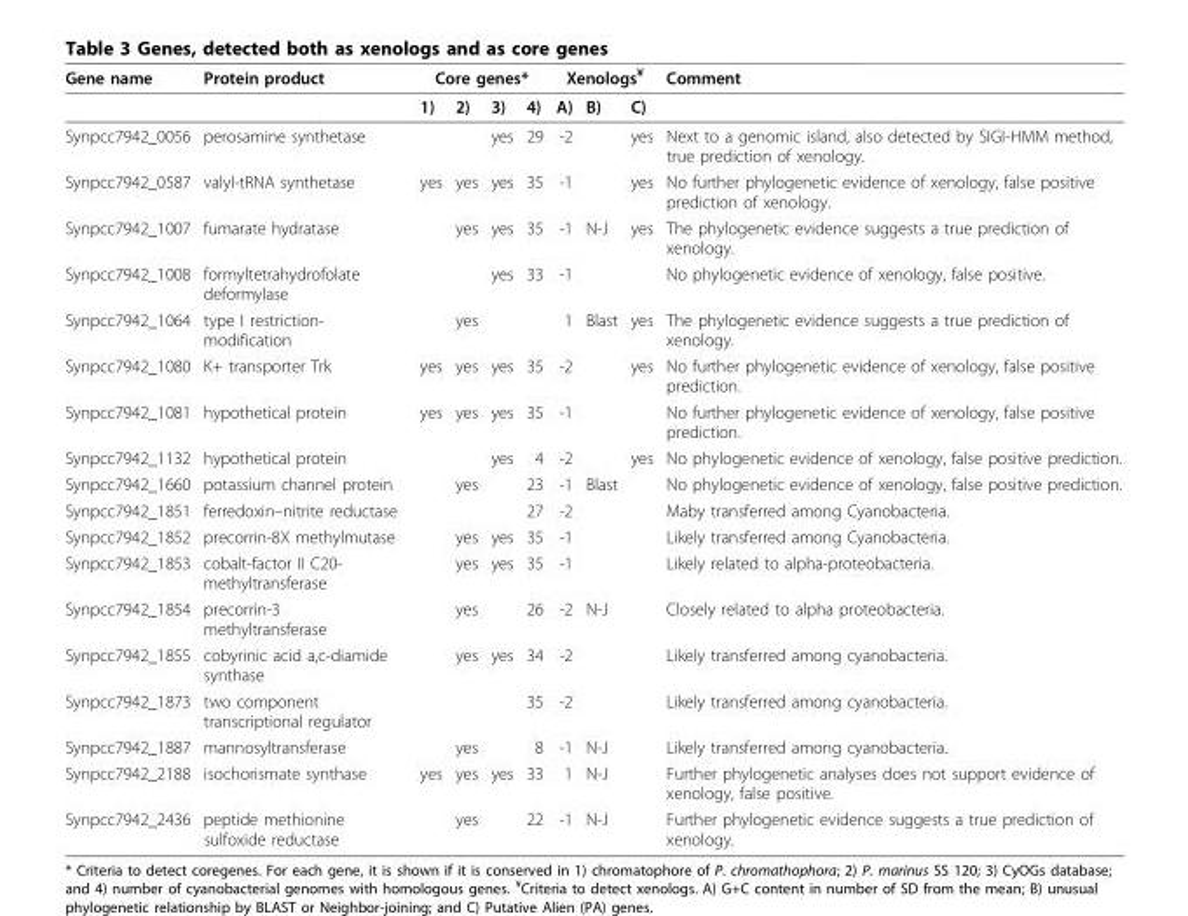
<table><thead><tr><td rowspan="2">Gene name</td><td rowspan="2">Protein product</td><td colspan="4">Core genes*</td><td colspan="3">Xenologs<sup>¥</sup></td><td rowspan="2">Comment</td></tr><tr><td>1)</td><td>2)</td><td>3)</td><td>4)</td><td>A)</td><td>B)</td><td>C)</td></tr></thead><tbody><tr><td>Synpcc7942_0056</td><td>perosamine synthetase</td><td></td><td></td><td>yes</td><td>29</td><td>-2</td><td></td><td>yes</td><td>Next to a genomic island, also detected by SIGI-HMM method, true prediction of xenology.</td></tr><tr><td>Synpcc7942_0587</td><td>valyl-tRNA synthetase</td><td>yes</td><td>yes</td><td>yes</td><td>35</td><td>-1</td><td></td><td>yes</td><td>No further phylogenetic evidence of xenology, false positive prediction of xenology.</td></tr><tr><td>Synpcc7942_1007</td><td>fumarate hydratase</td><td></td><td>yes</td><td>yes</td><td>35</td><td>-1</td><td>N-J</td><td>yes</td><td>The phylogenetic evidence suggests a true prediction of xenology.</td></tr><tr><td>Synpcc7942_1008</td><td>formyltetrahydrofolate deformylase</td><td></td><td></td><td>yes</td><td>33</td><td>-1</td><td></td><td></td><td>No phylogenetic evidence of xenology, false positive.</td></tr><tr><td>Synpcc7942_1064</td><td>type I restriction- modification</td><td></td><td>yes</td><td></td><td></td><td>1</td><td>Blast</td><td>yes</td><td>The phylogenetic evidence suggests a true prediction of xenology.</td></tr><tr><td>Synpcc7942_1080</td><td>K+ transporter Trk</td><td>yes</td><td>yes</td><td>yes</td><td>35</td><td>-2</td><td></td><td>yes</td><td>No further phylogenetic evidence of xenology, false positive prediction.</td></tr><tr><td>Synpcc7942_1081</td><td>hypothetical protein</td><td>yes</td><td>yes</td><td>yes</td><td>35</td><td>-1</td><td></td><td></td><td>No further phylogenetic evidence of xenology, false positive prediction.</td></tr><tr><td>Synpcc7942_1132</td><td>hypothetical protein</td><td></td><td></td><td>yes</td><td>4</td><td>-2</td><td></td><td>yes</td><td>No phylogenetic evidence of xenology, false positive prediction.</td></tr><tr><td>Synpcc7942_1660</td><td>potassium channel protein</td><td></td><td>yes</td><td></td><td>23</td><td>-1</td><td>Blast</td><td></td><td>No phylogenetic evidence of xenology, false positive prediction.</td></tr><tr><td>Synpcc7942_1851</td><td>ferredoxin–nitrite reductase</td><td></td><td></td><td></td><td>27</td><td>-2</td><td></td><td></td><td>Maby transferred among Cyanobacteria.</td></tr><tr><td>Synpcc7942_1852</td><td>precorrin-8X methylmutase</td><td></td><td>yes</td><td>yes</td><td>35</td><td>-1</td><td></td><td></td><td>Likely transferred among Cyanobacteria.</td></tr><tr><td>Synpcc7942_1853</td><td>cobalt-factor II C20- methyltransferase</td><td></td><td>yes</td><td>yes</td><td>35</td><td>-1</td><td></td><td></td><td>Likely related to alpha-proteobacteria.</td></tr><tr><td>Synpcc7942_1854</td><td>precorrin-3 methyltransferase</td><td></td><td>yes</td><td></td><td>26</td><td>-2</td><td>N-J</td><td></td><td>Closely related to alpha proteobacteria.</td></tr><tr><td>Synpcc7942_1855</td><td>cobyrinic acid a,c-diamide synthase</td><td></td><td>yes</td><td>yes</td><td>34</td><td>-2</td><td></td><td></td><td>Likely transferred among cyanobacteria.</td></tr><tr><td>Synpcc7942_1873</td><td>two component transcriptional regulator</td><td></td><td></td><td></td><td>35</td><td>-2</td><td></td><td></td><td>Likely transferred among cyanobacteria.</td></tr><tr><td>Synpcc7942_1887</td><td>mannosyltransferase</td><td></td><td>yes</td><td></td><td>8</td><td>-1</td><td>N-J</td><td></td><td>Likely transferred among cyanobacteria.</td></tr><tr><td>Synpcc7942_2188</td><td>isochorismate synthase</td><td>yes</td><td>yes</td><td>yes</td><td>33</td><td>1</td><td>N-J</td><td></td><td>Further phylogenetic analyses does not support evidence of xenology, false positive.</td></tr><tr><td>Synpcc7942_2436</td><td>peptide methionine sulfoxide reductase</td><td></td><td>yes</td><td></td><td>22</td><td>-1</td><td>N-J</td><td></td><td>Further phylogenetic evidence suggests a true prediction of xenology.</td></tr></tbody></table>